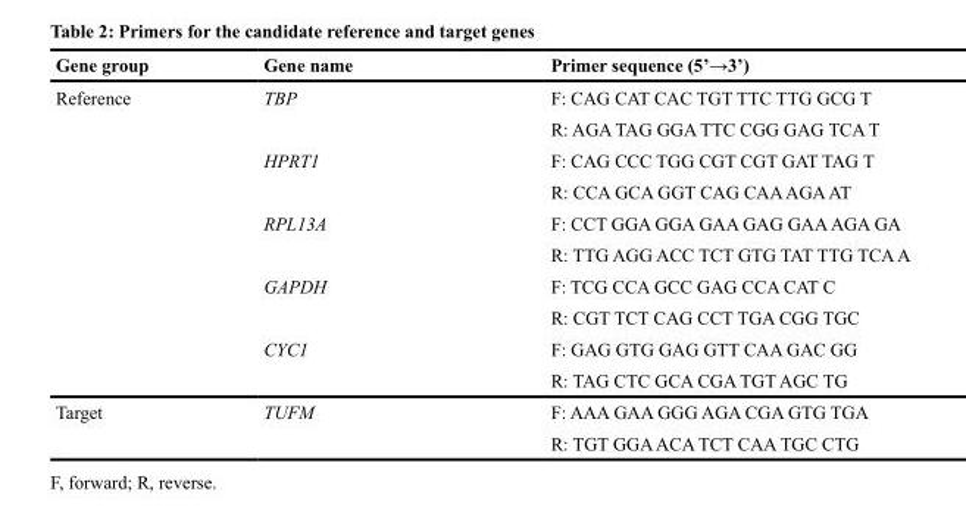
<table><thead><tr><td>Gene group</td><td>Gene name</td><td>Primer sequence (5’→3’)</td></tr></thead><tbody><tr><td rowspan="10">Reference</td><td>TBP</td><td>F: CAG CAT CAC TGT TTC TTG GCG T</td></tr><tr><td></td><td>R: AGA TAG GGA TTC CGG GAG TCA T</td></tr><tr><td>HPRT1</td><td>F: CAG CCC TGG CGT CGT GAT TAG T</td></tr><tr><td></td><td>R: CCA GCA GGT CAG CAA AGA AT</td></tr><tr><td>RPL13A</td><td>F: CCT GGA GGA GAA GAG GAA AGA GA</td></tr><tr><td></td><td>R: TTG AGG ACC TCT GTG TAT TTG TCA A</td></tr><tr><td>GAPDH</td><td>F: TCG CCA GCC GAG CCA CAT C</td></tr><tr><td></td><td>R: CGT TCT CAG CCT TGA CGG TGC</td></tr><tr><td>CYC1</td><td>F: GAG GTG GAG GTT CAA GAC GG</td></tr><tr><td></td><td>R: TAG CTC GCA CGA TGT AGC TG</td></tr><tr><td rowspan="2">Target</td><td>TUFM</td><td>F: AAA GAA GGG AGA CGA GTG TGA</td></tr><tr><td></td><td>R: TGT GGA ACA TCT CAA TGC CTG</td></tr></tbody></table>